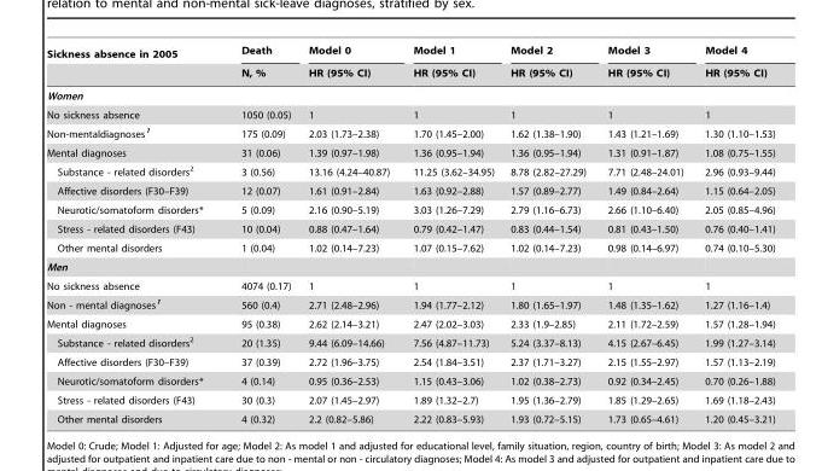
<table><thead><tr><td rowspan="2">Sickness absence in 2005</td><td rowspan="2">Death N, %</td><td rowspan="2">Model 0 HR (95% CI)</td><td rowspan="2">Model 1 HR (95% CI)</td><td rowspan="2">Model 2 HR (95% CI)</td><td rowspan="2">Model 3 HR (95% CI)</td><td rowspan="2">Model 4 HR (95% CI)</td></tr><tr></tr></thead><tbody><tr><td colspan="7">Women</td></tr><tr><td>No sickness absence</td><td>1050 (0.05)</td><td>1</td><td>1</td><td>1</td><td>1</td><td>1</td></tr><tr><td>Non-mentaldiagnoses<sup>1</sup></td><td>175 (0.09)</td><td>2.03 (1.73–2.38)</td><td>1.70 (1.45–2.00)</td><td>1.62 (1.38–1.90)</td><td>1.43 (1.21–1.69)</td><td>1.30 (1.10–1.53)</td></tr><tr><td>Mental diagnoses</td><td>31 (0.06)</td><td>1.39 (0.97–1.98)</td><td>1.36 (0.95–1.94)</td><td>1.36 (0.95–1.94)</td><td>1.31 (0.91–1.87)</td><td>1.08 (0.75–1.55)</td></tr><tr><td>Substance - related disorders<sup>2</sup></td><td>3 (0.56)</td><td>13.16 (4.24–40.87)</td><td>11.25 (3.62–34.95)</td><td>8.78 (2.82–27.29)</td><td>7.71 (2.48–24.01)</td><td>2.96 (0.93–9.44)</td></tr><tr><td>Affective disorders (F30–F39)</td><td>12 (0.07)</td><td>1.61 (0.91–2.84)</td><td>1.63 (0.92–2.88)</td><td>1.57 (0.89–2.77)</td><td>1.49 (0.84–2.64)</td><td>1.15 (0.64–2.05)</td></tr><tr><td>Neurotic/somatoform disorders*</td><td>5 (0.09)</td><td>2.16 (0.90–5.19)</td><td>3.03 (1.26–7.29)</td><td>2.79 (1.16–6.73)</td><td>2.66 (1.10–6.40)</td><td>2.05 (0.85–4.96)</td></tr><tr><td>Stress - related disorders (F43)</td><td>10 (0.04)</td><td>0.88 (0.47–1.64)</td><td>0.79 (0.42–1.47)</td><td>0.83 (0.44–1.54)</td><td>0.81 (0.43–1.50)</td><td>0.76 (0.40–1.41)</td></tr><tr><td>Other mental disorders</td><td>1 (0.04)</td><td>1.02 (0.14–7.23)</td><td>1.07 (0.15–7.62)</td><td>1.02 (0.14–7.23)</td><td>0.98 (0.14–6.97)</td><td>0.74 (0.10–5.30)</td></tr><tr><td colspan="7">Men</td></tr><tr><td>No sickness absence</td><td>4074 (0.17)</td><td>1</td><td>1</td><td>1</td><td>1</td><td>1</td></tr><tr><td>Non - mental diagnoses<sup>1</sup></td><td>560 (0.4)</td><td>2.71 (2.48–2.96)</td><td>1.94 (1.77–2.12)</td><td>1.80 (1.65–1.97)</td><td>1.48 (1.35–1.62)</td><td>1.27 (1.16–1.4)</td></tr><tr><td>Mental diagnoses</td><td>95 (0.38)</td><td>2.62 (2.14–3.21)</td><td>2.47 (2.02–3.03)</td><td>2.33 (1.9–2.85)</td><td>2.11 (1.72–2.59)</td><td>1.57 (1.28–1.94)</td></tr><tr><td>Substance - related disorders<sup>2</sup></td><td>20 (1.35)</td><td>9.44 (6.09–14.66)</td><td>7.56 (4.87–11.73)</td><td>5.24 (3.37–8.13)</td><td>4.15 (2.67–6.45)</td><td>1.99 (1.27–3.14)</td></tr><tr><td>Affective disorders (F30–F39)</td><td>37 (0.39)</td><td>2.72 (1.96–3.75)</td><td>2.54 (1.84–3.51)</td><td>2.37 (1.71–3.27)</td><td>2.15 (1.55–2.97)</td><td>1.57 (1.13–2.19)</td></tr><tr><td>Neurotic/somatoform disorders*</td><td>4 (0.14)</td><td>0.95 (0.36–2.53)</td><td>1.15 (0.43–3.06)</td><td>1.02 (0.38–2.73)</td><td>0.92 (0.34–2.45)</td><td>0.70 (0.26–1.88)</td></tr><tr><td>Stress - related disorders (F43)</td><td>30 (0.3)</td><td>2.07 (1.45–2.97)</td><td>1.89 (1.32–2.7)</td><td>1.95 (1.36–2.79)</td><td>1.85 (1.29–2.65)</td><td>1.69 (1.18–2.43)</td></tr><tr><td>Other mental disorders</td><td>4 (0.32)</td><td>2.2 (0.82–5.86)</td><td>2.22 (0.83–5.93)</td><td>1.93 (0.72–5.15)</td><td>1.73 (0.65–4.61)</td><td>1.20 (0.45–3.21)</td></tr></tbody></table>